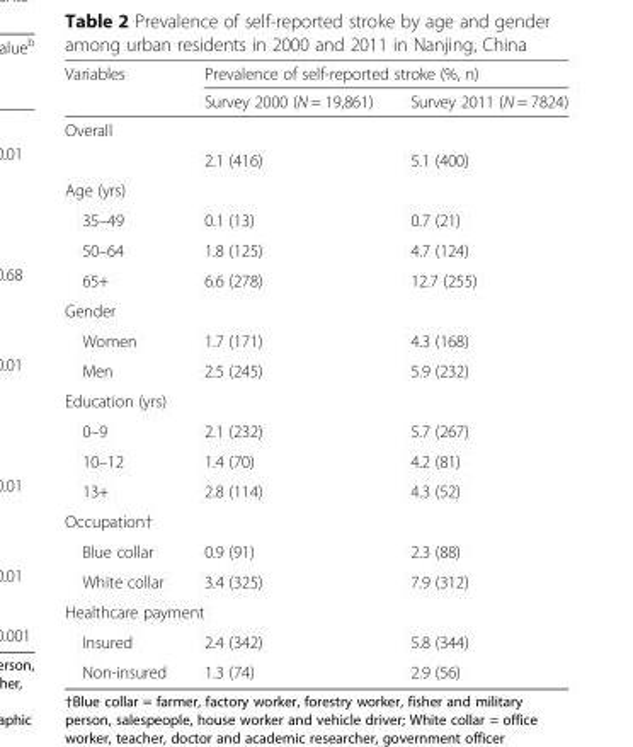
<table><thead><tr><td rowspan="2">Variables</td><td colspan="2">Prevalence of self-reported stroke (%, n)</td></tr><tr><td>Survey 2000 (N = 19,861)</td><td>Survey 2011 (N = 7824)</td></tr></thead><tbody><tr><td colspan="3">Overall</td></tr><tr><td></td><td>2.1 (416)</td><td>5.1 (400)</td></tr><tr><td colspan="3">Age (yrs)</td></tr><tr><td>35–49</td><td>0.1 (13)</td><td>0.7 (21)</td></tr><tr><td>50–64</td><td>1.8 (125)</td><td>4.7 (124)</td></tr><tr><td>65+</td><td>6.6 (278)</td><td>12.7 (255)</td></tr><tr><td colspan="3">Gender</td></tr><tr><td>Women</td><td>1.7 (171)</td><td>4.3 (168)</td></tr><tr><td>Men</td><td>2.5 (245)</td><td>5.9 (232)</td></tr><tr><td colspan="3">Education (yrs)</td></tr><tr><td>0–9</td><td>2.1 (232)</td><td>5.7 (267)</td></tr><tr><td>10–12</td><td>1.4 (70)</td><td>4.2 (81)</td></tr><tr><td>13+</td><td>2.8 (114)</td><td>4.3 (52)</td></tr><tr><td colspan="3">Occupation†</td></tr><tr><td>Blue collar</td><td>0.9 (91)</td><td>2.3 (88)</td></tr><tr><td>White collar</td><td>3.4 (325)</td><td>7.9 (312)</td></tr><tr><td colspan="3">Healthcare payment</td></tr><tr><td>Insured</td><td>2.4 (342)</td><td>5.8 (344)</td></tr><tr><td>Non-insured</td><td>1.3 (74)</td><td>2.9 (56)</td></tr></tbody></table>